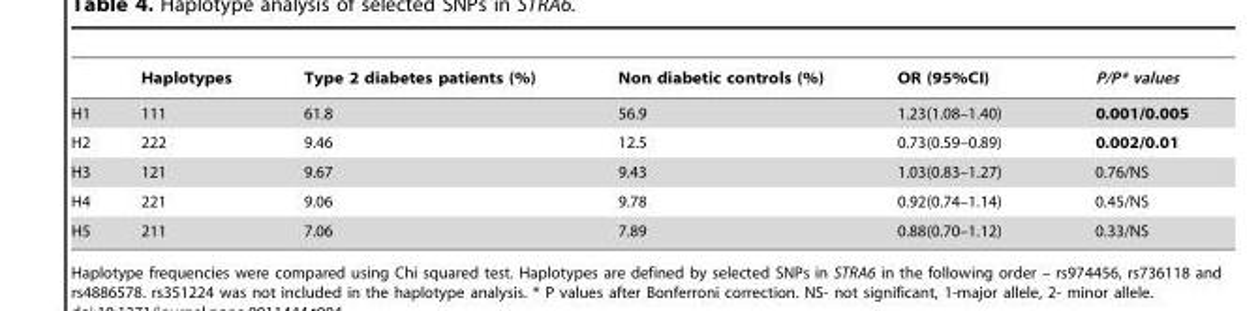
<table><thead><tr><td></td><td>Haplotypes</td><td>Type 2 diabetes patients (%)</td><td>Non diabetic controls (%)</td><td>OR (95%CI)</td><td>P/P* values</td></tr></thead><tbody><tr><td>H1</td><td>111</td><td>61.8</td><td>56.9</td><td>1.23(1.08–1.40)</td><td>0.001/0.005</td></tr><tr><td>H2</td><td>222</td><td>9.46</td><td>12.5</td><td>0.73(0.59–0.89)</td><td>0.002/0.01</td></tr><tr><td>H3</td><td>121</td><td>9.67</td><td>9.43</td><td>1.03(0.83–1.27)</td><td>0.76/NS</td></tr><tr><td>H4</td><td>221</td><td>9.06</td><td>9.78</td><td>0.92(0.74–1.14)</td><td>0.45/NS</td></tr><tr><td>H5</td><td>211</td><td>7.06</td><td>7.89</td><td>0.88(0.70–1.12)</td><td>0.33/NS</td></tr></tbody></table>